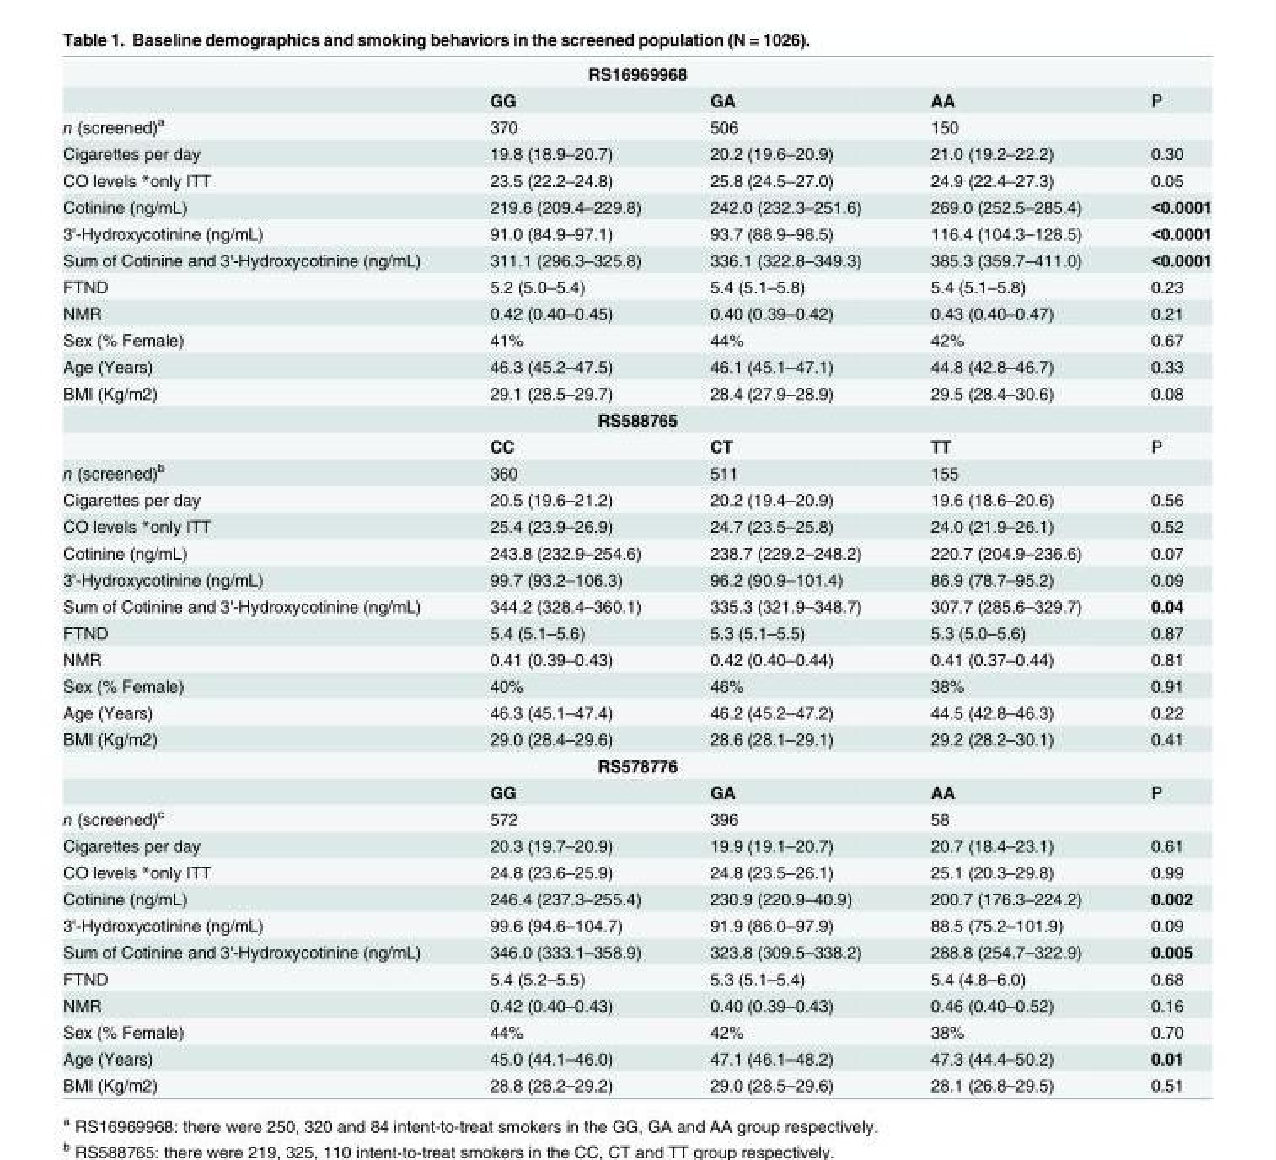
<table><tbody><tr><td colspan="5">RS16969968</td></tr><tr><td></td><td>GG</td><td>GA</td><td>AA</td><td>P</td></tr><tr><td>n (screened)<sup>a</sup></td><td>370</td><td>506</td><td>150</td><td></td></tr><tr><td>Cigarettes per day</td><td>19.8 (18.9–20.7)</td><td>20.2 (19.6–20.9)</td><td>21.0 (19.2–22.2)</td><td>0.30</td></tr><tr><td>CO levels *only ITT</td><td>23.5 (22.2–24.8)</td><td>25.8 (24.5–27.0)</td><td>24.9 (22.4–27.3)</td><td>0.05</td></tr><tr><td>Cotinine (ng/mL)</td><td>219.6 (209.4–229.8)</td><td>242.0 (232.3–251.6)</td><td>269.0 (252.5–285.4)</td><td>&lt;0.0001</td></tr><tr><td>3&#x27;-Hydroxycotinine (ng/mL)</td><td>91.0 (84.9–97.1)</td><td>93.7 (88.9–98.5)</td><td>116.4 (104.3–128.5)</td><td>&lt;0.0001</td></tr><tr><td>Sum of Cotinine and 3&#x27;-Hydroxycotinine (ng/mL)</td><td>311.1 (296.3–325.8)</td><td>336.1 (322.8–349.3)</td><td>385.3 (359.7–411.0)</td><td>&lt;0.0001</td></tr><tr><td>FTND</td><td>5.2 (5.0–5.4)</td><td>5.4 (5.1–5.8)</td><td>5.4 (5.1–5.8)</td><td>0.23</td></tr><tr><td>NMR</td><td>0.42 (0.40–0.45)</td><td>0.40 (0.39–0.42)</td><td>0.43 (0.40–0.47)</td><td>0.21</td></tr><tr><td>Sex (% Female)</td><td>41%</td><td>44%</td><td>42%</td><td>0.67</td></tr><tr><td>Age (Years)</td><td>46.3 (45.2–47.5)</td><td>46.1 (45.1–47.1)</td><td>44.8 (42.8–46.7)</td><td>0.33</td></tr><tr><td>BMI (Kg/m2)</td><td>29.1 (28.5–29.7)</td><td>28.4 (27.9–28.9)</td><td>29.5 (28.4–30.6)</td><td>0.08</td></tr><tr><td colspan="5">RS588765</td></tr><tr><td></td><td>CC</td><td>CT</td><td>TT</td><td>P</td></tr><tr><td>n (screened)<sup>b</sup></td><td>360</td><td>511</td><td>155</td><td></td></tr><tr><td>Cigarettes per day</td><td>20.5 (19.6–21.2)</td><td>20.2 (19.4–20.9)</td><td>19.6 (18.6–20.6)</td><td>0.56</td></tr><tr><td>CO levels *only ITT</td><td>25.4 (23.9–26.9)</td><td>24.7 (23.5–25.8)</td><td>24.0 (21.9–26.1)</td><td>0.52</td></tr><tr><td>Cotinine (ng/mL)</td><td>243.8 (232.9–254.6)</td><td>238.7 (229.2–248.2)</td><td>220.7 (204.9–236.6)</td><td>0.07</td></tr><tr><td>3&#x27;-Hydroxycotinine (ng/mL)</td><td>99.7 (93.2–106.3)</td><td>96.2 (90.9–101.4)</td><td>86.9 (78.7–95.2)</td><td>0.09</td></tr><tr><td>Sum of Cotinine and 3&#x27;-Hydroxycotinine (ng/mL)</td><td>344.2 (328.4–360.1)</td><td>335.3 (321.9–348.7)</td><td>307.7 (285.6–329.7)</td><td>0.04</td></tr><tr><td>FTND</td><td>5.4 (5.1–5.6)</td><td>5.3 (5.1–5.5)</td><td>5.3 (5.0–5.6)</td><td>0.87</td></tr><tr><td>NMR</td><td>0.41 (0.39–0.43)</td><td>0.42 (0.40–0.44)</td><td>0.41 (0.37–0.44)</td><td>0.81</td></tr><tr><td>Sex (% Female)</td><td>40%</td><td>46%</td><td>38%</td><td>0.91</td></tr><tr><td>Age (Years)</td><td>46.3 (45.1–47.4)</td><td>46.2 (45.2–47.2)</td><td>44.5 (42.8–46.3)</td><td>0.22</td></tr><tr><td>BMI (Kg/m2)</td><td>29.0 (28.4–29.6)</td><td>28.6 (28.1–29.1)</td><td>29.2 (28.2–30.1)</td><td>0.41</td></tr><tr><td colspan="5">RS578776</td></tr><tr><td></td><td>GG</td><td>GA</td><td>AA</td><td>P</td></tr><tr><td>n (screened)<sup>c</sup></td><td>572</td><td>396</td><td>58</td><td></td></tr><tr><td>Cigarettes per day</td><td>20.3 (19.7–20.9)</td><td>19.9 (19.1–20.7)</td><td>20.7 (18.4–23.1)</td><td>0.61</td></tr><tr><td>CO levels *only ITT</td><td>24.8 (23.6–25.9)</td><td>24.8 (23.5–26.1)</td><td>25.1 (20.3–29.8)</td><td>0.99</td></tr><tr><td>Cotinine (ng/mL)</td><td>246.4 (237.3–255.4)</td><td>230.9 (220.9–40.9)</td><td>200.7 (176.3–224.2)</td><td>0.002</td></tr><tr><td>3&#x27;-Hydroxycotinine (ng/mL)</td><td>99.6 (94.6–104.7)</td><td>91.9 (86.0–97.9)</td><td>88.5 (75.2–101.9)</td><td>0.09</td></tr><tr><td>Sum of Cotinine and 3&#x27;-Hydroxycotinine (ng/mL)</td><td>346.0 (333.1–358.9)</td><td>323.8 (309.5–338.2)</td><td>288.8 (254.7–322.9)</td><td>0.005</td></tr><tr><td>FTND</td><td>5.4 (5.2–5.5)</td><td>5.3 (5.1–5.4)</td><td>5.4 (4.8–6.0)</td><td>0.68</td></tr><tr><td>NMR</td><td>0.42 (0.40–0.43)</td><td>0.40 (0.39–0.43)</td><td>0.46 (0.40–0.52)</td><td>0.16</td></tr><tr><td>Sex (% Female)</td><td>44%</td><td>42%</td><td>38%</td><td>0.70</td></tr><tr><td>Age (Years)</td><td>45.0 (44.1–46.0)</td><td>47.1 (46.1–48.2)</td><td>47.3 (44.4–50.2)</td><td>0.01</td></tr><tr><td>BMI (Kg/m2)</td><td>28.8 (28.2–29.2)</td><td>29.0 (28.5–29.6)</td><td>28.1 (26.8–29.5)</td><td>0.51</td></tr></tbody></table>